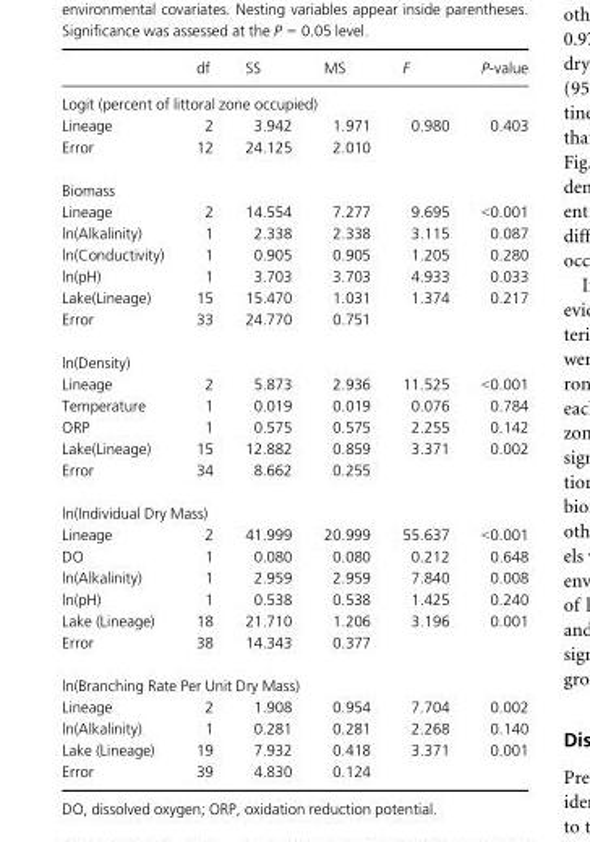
<table><thead><tr><td></td><td>df</td><td>SS</td><td>MS</td><td>F</td><td>P-value</td></tr></thead><tbody><tr><td colspan="6">Logit (percent of littoral zone occupied)</td></tr><tr><td>Lineage</td><td>2</td><td>3.942</td><td>1.971</td><td>0.980</td><td>0.403</td></tr><tr><td>Error</td><td>12</td><td>24.125</td><td>2.010</td><td></td><td></td></tr><tr><td colspan="6">Biomass</td></tr><tr><td>Lineage</td><td>2</td><td>14.554</td><td>7.277</td><td>9.695</td><td>&lt;0.001</td></tr><tr><td>ln(Alkalinity)</td><td>1</td><td>2.338</td><td>2.338</td><td>3.115</td><td>0.087</td></tr><tr><td>ln(Conductivity)</td><td>1</td><td>0.905</td><td>0.905</td><td>1.205</td><td>0.280</td></tr><tr><td>ln(pH)</td><td>1</td><td>3.703</td><td>3.703</td><td>4.933</td><td>0.033</td></tr><tr><td>Lake(Lineage)</td><td>15</td><td>15.470</td><td>1.031</td><td>1.374</td><td>0.217</td></tr><tr><td>Error</td><td>33</td><td>24.770</td><td>0.751</td><td></td><td></td></tr><tr><td colspan="6">ln(Density)</td></tr><tr><td>Lineage</td><td>2</td><td>5.873</td><td>2.936</td><td>11.525</td><td>&lt;0.001</td></tr><tr><td>Temperature</td><td>1</td><td>0.019</td><td>0.019</td><td>0.076</td><td>0.784</td></tr><tr><td>ORP</td><td>1</td><td>0.575</td><td>0.575</td><td>2.255</td><td>0.142</td></tr><tr><td>Lake(Lineage)</td><td>15</td><td>12.882</td><td>0.859</td><td>3.371</td><td>0.002</td></tr><tr><td>Error</td><td>34</td><td>8.662</td><td>0.255</td><td></td><td></td></tr><tr><td colspan="6">ln(Individual Dry Mass)</td></tr><tr><td>Lineage</td><td>2</td><td>41.999</td><td>20.999</td><td>55.637</td><td>&lt;0.001</td></tr><tr><td>DO</td><td>1</td><td>0.080</td><td>0.080</td><td>0.212</td><td>0.648</td></tr><tr><td>ln(Alkalinity)</td><td>1</td><td>2.959</td><td>2.959</td><td>7.840</td><td>0.008</td></tr><tr><td>ln(pH)</td><td>1</td><td>0.538</td><td>0.538</td><td>1.425</td><td>0.240</td></tr><tr><td>Lake (Lineage)</td><td>18</td><td>21.710</td><td>1.206</td><td>3.196</td><td>0.001</td></tr><tr><td>Error</td><td>38</td><td>14.343</td><td>0.377</td><td></td><td></td></tr><tr><td colspan="6">ln(Branching Rate Per Unit Dry Mass)</td></tr><tr><td>Lineage</td><td>2</td><td>1.908</td><td>0.954</td><td>7.704</td><td>0.002</td></tr><tr><td>ln(Alkalinity)</td><td>1</td><td>0.281</td><td>0.281</td><td>2.268</td><td>0.140</td></tr><tr><td>Lake (Lineage)</td><td>19</td><td>7.932</td><td>0.418</td><td>3.371</td><td>0.001</td></tr><tr><td>Error</td><td>39</td><td>4.830</td><td>0.124</td><td></td><td></td></tr></tbody></table>